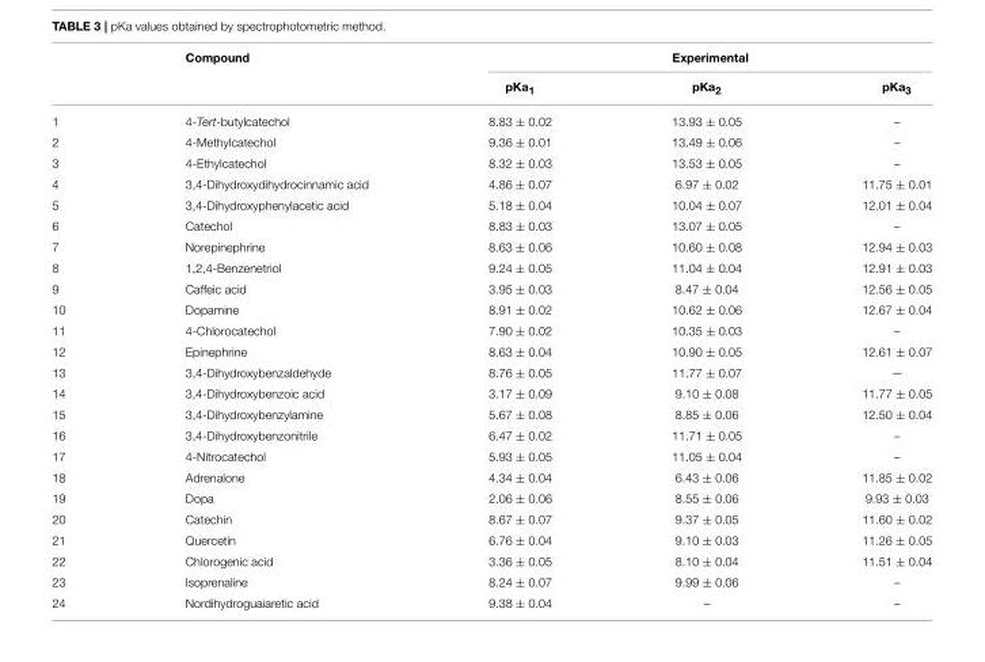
<table><thead><tr><td rowspan="2"></td><td rowspan="2">Compound</td><td colspan="3">Experimental</td></tr><tr><td>pKa<sub>1</sub></td><td>pKa<sub>2</sub></td><td>pKa<sub>3</sub></td></tr></thead><tbody><tr><td>1</td><td>4-Tert-butylcatechol</td><td>8.83 ± 0.02</td><td>13.93 ± 0.05</td><td>–</td></tr><tr><td>2</td><td>4-Methylcatechol</td><td>9.36 ± 0.01</td><td>13.49 ± 0.06</td><td>–</td></tr><tr><td>3</td><td>4-Ethylcatechol</td><td>8.32 ± 0.03</td><td>13.53 ± 0.05</td><td>–</td></tr><tr><td>4</td><td>3,4-Dihydroxydihydrocinnamic acid</td><td>4.86 ± 0.07</td><td>6.97 ± 0.02</td><td>11.75 ± 0.01</td></tr><tr><td>5</td><td>3,4-Dihydroxyphenylacetic acid</td><td>5.18 ± 0.04</td><td>10.04 ± 0.07</td><td>12.01 ± 0.04</td></tr><tr><td>6</td><td>Catechol</td><td>8.83 ± 0.03</td><td>13.07 ± 0.05</td><td>–</td></tr><tr><td>7</td><td>Norepinephrine</td><td>8.63 ± 0.06</td><td>10.60 ± 0.08</td><td>12.94 ± 0.03</td></tr><tr><td>8</td><td>1,2,4-Benzenetriol</td><td>9.24 ± 0.05</td><td>11.04 ± 0.04</td><td>12.91 ± 0.03</td></tr><tr><td>9</td><td>Caffeic acid</td><td>3.95 ± 0.03</td><td>8.47 ± 0.04</td><td>12.56 ± 0.05</td></tr><tr><td>10</td><td>Dopamine</td><td>8.91 ± 0.02</td><td>10.62 ± 0.06</td><td>12.67 ± 0.04</td></tr><tr><td>11</td><td>4-Chlorocatechol</td><td>7.90 ± 0.02</td><td>10.35 ± 0.03</td><td>–</td></tr><tr><td>12</td><td>Epinephrine</td><td>8.63 ± 0.04</td><td>10.90 ± 0.05</td><td>12.61 ± 0.07</td></tr><tr><td>13</td><td>3,4-Dihydroxybenzaldehyde</td><td>8.76 ± 0.05</td><td>11.77 ± 0.07</td><td>—</td></tr><tr><td>14</td><td>3,4-Dihydroxybenzoic acid</td><td>3.17 ± 0.09</td><td>9.10 ± 0.08</td><td>11.77 ± 0.05</td></tr><tr><td>15</td><td>3,4-Dihydroxybenzylamine</td><td>5.67 ± 0.08</td><td>8.85 ± 0.06</td><td>12.50 ± 0.04</td></tr><tr><td>16</td><td>3,4-Dihydroxybenzonitrile</td><td>6.47 ± 0.02</td><td>11.71 ± 0.05</td><td>–</td></tr><tr><td>17</td><td>4-Nitrocatechol</td><td>5.93 ± 0.05</td><td>11.05 ± 0.04</td><td>–</td></tr><tr><td>18</td><td>Adrenalone</td><td>4.34 ± 0.04</td><td>6.43 ± 0.06</td><td>11.85 ± 0.02</td></tr><tr><td>19</td><td>Dopa</td><td>2.06 ± 0.06</td><td>8.55 ± 0.06</td><td>9.93 ± 0.03</td></tr><tr><td>20</td><td>Catechin</td><td>8.67 ± 0.07</td><td>9.37 ± 0.05</td><td>11.60 ± 0.02</td></tr><tr><td>21</td><td>Quercetin</td><td>6.76 ± 0.04</td><td>9.10 ± 0.03</td><td>11.26 ± 0.05</td></tr><tr><td>22</td><td>Chlorogenic acid</td><td>3.36 ± 0.05</td><td>8.10 ± 0.04</td><td>11.51 ± 0.04</td></tr><tr><td>23</td><td>Isoprenaline</td><td>8.24 ± 0.07</td><td>9.99 ± 0.06</td><td>–</td></tr><tr><td>24</td><td>Nordihydroguaiaretic acid</td><td>9.38 ± 0.04</td><td>–</td><td>–</td></tr></tbody></table>